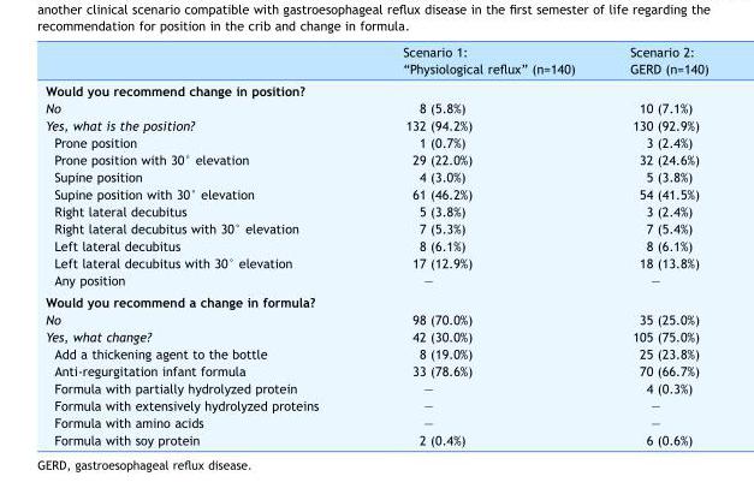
<table><thead><tr><td></td><td>Scenario 1: “Physiological reflux” (n=140)</td><td>Scenario 2: GERD (n=140)</td></tr></thead><tbody><tr><td colspan="3">Would you recommend change in position?</td></tr><tr><td>No</td><td>8 (5.8%)</td><td>10 (7.1%)</td></tr><tr><td>Yes, what is the position?</td><td>132 (94.2%)</td><td>130 (92.9%)</td></tr><tr><td>Prone position</td><td>1 (0.7%)</td><td>3 (2.4%)</td></tr><tr><td>Prone position with 30° elevation</td><td>29 (22.0%)</td><td>32 (24.6%)</td></tr><tr><td>Supine position</td><td>4 (3.0%)</td><td>5 (3.8%)</td></tr><tr><td>Supine position with 30° elevation</td><td>61 (46.2%)</td><td>54 (41.5%)</td></tr><tr><td>Right lateral decubitus</td><td>5 (3.8%)</td><td>3 (2.4%)</td></tr><tr><td>Right lateral decubitus with 30° elevation</td><td>7 (5.3%)</td><td>7 (5.4%)</td></tr><tr><td>Left lateral decubitus</td><td>8 (6.1%)</td><td>8 (6.1%)</td></tr><tr><td>Left lateral decubitus with 30° elevation</td><td>17 (12.9%)</td><td>18 (13.8%)</td></tr><tr><td>Any position</td><td>—</td><td>—</td></tr><tr><td colspan="3">Would you recommend a change in formula?</td></tr><tr><td>No</td><td>98 (70.0%)</td><td>35 (25.0%)</td></tr><tr><td>Yes, what change?</td><td>42 (30.0%)</td><td>105 (75.0%)</td></tr><tr><td>Add a thickening agent to the bottle</td><td>8 (19.0%)</td><td>25 (23.8%)</td></tr><tr><td>Anti-regurgitation infant formula</td><td>33 (78.6%)</td><td>70 (66.7%)</td></tr><tr><td>Formula with partially hydrolyzed protein</td><td>—</td><td>4 (0.3%)</td></tr><tr><td>Formula with extensively hydrolyzed proteins</td><td>—</td><td>—</td></tr><tr><td>Formula with amino acids</td><td>—</td><td>—</td></tr><tr><td>Formula with soy protein</td><td>2 (0.4%)</td><td>6 (0.6%)</td></tr></tbody></table>